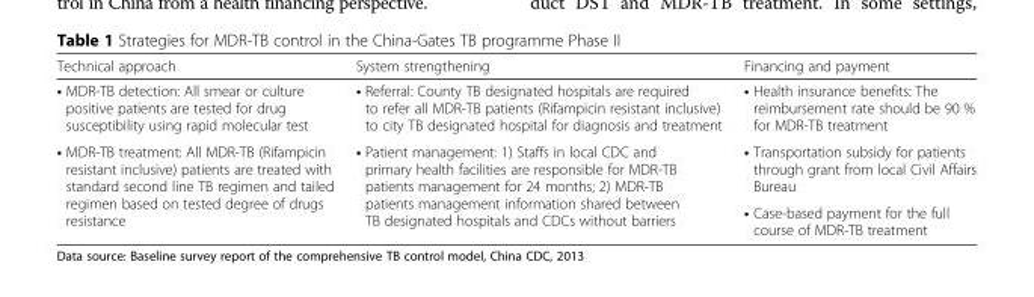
<table><thead><tr><td>Technical approach</td><td>System strengthening</td><td>Financing and payment</td></tr></thead><tbody><tr><td>• MDR-TB detection: All smear or culture positive patients are tested for drug susceptibility using rapid molecular test</td><td>• Referral: County TB designated hospitals are required to refer all MDR-TB patients (Rifampicin resistant inclusive) to city TB designated hospital for diagnosis and treatment</td><td>• Health insurance benefits: The reimbursement rate should be 90 % for MDR-TB treatment</td></tr><tr><td rowspan="2">• MDR-TB treatment: All MDR-TB (Rifampicin resistant inclusive) patients are treated with standard second line TB regimen and tailed regimen based on tested degree of drugs resistance</td><td rowspan="2">• Patient management: 1) Staffs in local CDC and primary health facilities are responsible for MDR-TB patients management for 24 months; 2) MDR-TB patients management information shared between TB designated hospitals and CDCs without barriers</td><td>• Transportation subsidy for patients through grant from local Civil Affairs Bureau</td></tr><tr><td>• Case-based payment for the full course of MDR-TB treatment</td></tr></tbody></table>